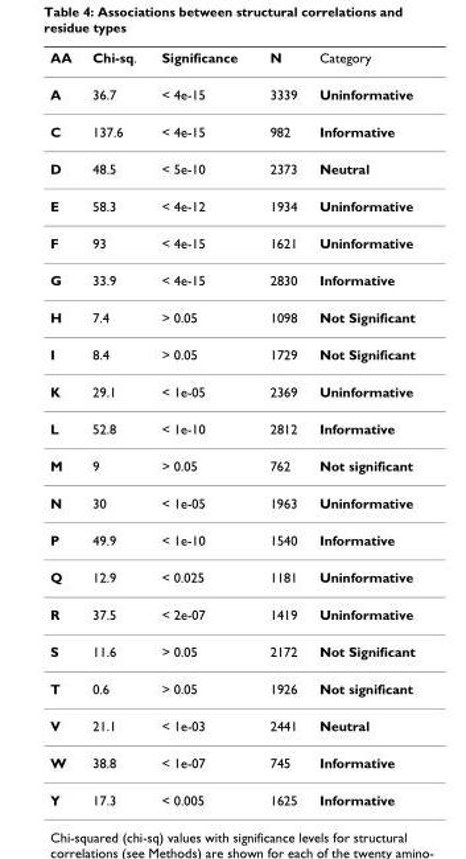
<table><thead><tr><td>AA</td><td>Chi-sq.</td><td>Significance</td><td>N</td><td>Category</td></tr></thead><tbody><tr><td>A</td><td>36.7</td><td>&lt; 4e-15</td><td>3339</td><td>Uninformative</td></tr><tr><td>C</td><td>137.6</td><td>&lt; 4e-15</td><td>982</td><td>Informative</td></tr><tr><td>D</td><td>48.5</td><td>&lt; 5e-10</td><td>2373</td><td>Neutral</td></tr><tr><td>E</td><td>58.3</td><td>&lt; 4e-12</td><td>1934</td><td>Uninformative</td></tr><tr><td>F</td><td>93</td><td>&lt; 4e-15</td><td>1621</td><td>Uninformative</td></tr><tr><td>G</td><td>33.9</td><td>&lt; 4e-15</td><td>2830</td><td>Informative</td></tr><tr><td>H</td><td>7.4</td><td>&gt; 0.05</td><td>1098</td><td>Not Significant</td></tr><tr><td>I</td><td>8.4</td><td>&gt; 0.05</td><td>1729</td><td>Not Significant</td></tr><tr><td>K</td><td>29.1</td><td>&lt; 1e-05</td><td>2369</td><td>Uninformative</td></tr><tr><td>L</td><td>52.8</td><td>&lt; 1e-10</td><td>2812</td><td>Informative</td></tr><tr><td>M</td><td>9</td><td>&gt; 0.05</td><td>762</td><td>Not significant</td></tr><tr><td>N</td><td>30</td><td>&lt; 1e-05</td><td>1963</td><td>Uninformative</td></tr><tr><td>P</td><td>49.9</td><td>&lt; 1e-10</td><td>1540</td><td>Informative</td></tr><tr><td>Q</td><td>12.9</td><td>&lt; 0.025</td><td>1181</td><td>Uninformative</td></tr><tr><td>R</td><td>37.5</td><td>&lt; 2e-07</td><td>1419</td><td>Uninformative</td></tr><tr><td>S</td><td>11.6</td><td>&gt; 0.05</td><td>2172</td><td>Not Significant</td></tr><tr><td>T</td><td>0.6</td><td>&gt; 0.05</td><td>1926</td><td>Not significant</td></tr><tr><td>V</td><td>21.1</td><td>&lt; 1e-03</td><td>2441</td><td>Neutral</td></tr><tr><td>W</td><td>38.8</td><td>&lt; 1e-07</td><td>745</td><td>Informative</td></tr><tr><td>Y</td><td>17.3</td><td>&lt; 0.005</td><td>1625</td><td>Informative</td></tr></tbody></table>